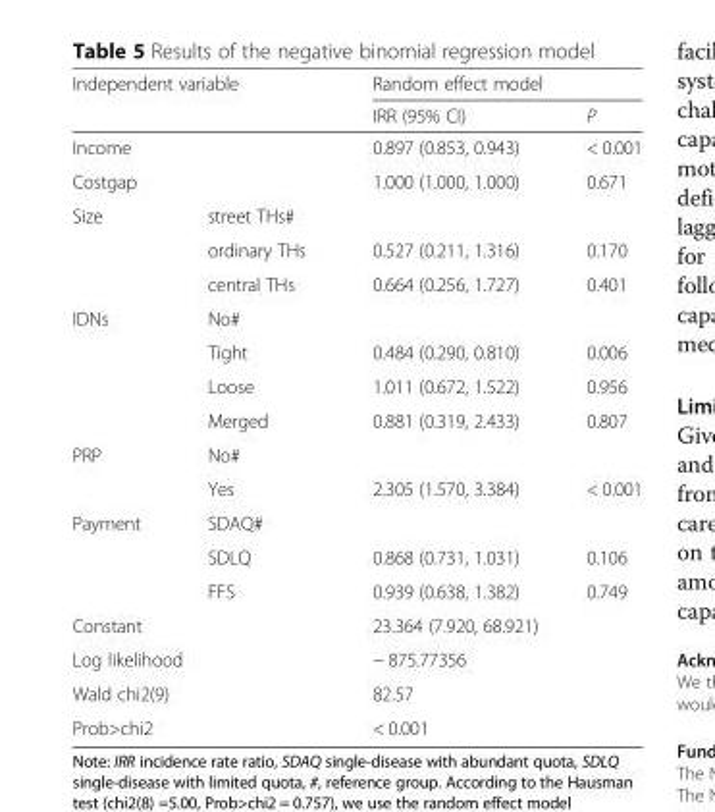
<table><thead><tr><td rowspan="2" colspan="2">Independent variable</td><td colspan="2">Random effect model</td></tr><tr><td rowspan="2">IRR (95% CI) 0.897 (0.853, 0.943)</td><td rowspan="2">P &lt; 0.001</td></tr><tr><td>Income</td><td></td></tr></thead><tbody><tr><td>Costgap</td><td></td><td>1.000 (1.000, 1.000)</td><td>0.671</td></tr><tr><td rowspan="3">Size</td><td>street THs#</td><td></td><td></td></tr><tr><td>ordinary THs</td><td>0.527 (0.211, 1.316)</td><td>0.170</td></tr><tr><td>central THs</td><td>0.664 (0.256, 1.727)</td><td>0.401</td></tr><tr><td rowspan="4">IDNs</td><td>No#</td><td></td><td></td></tr><tr><td>Tight</td><td>0.484 (0.290, 0.810)</td><td>0.006</td></tr><tr><td>Loose</td><td>1.011 (0.672, 1.522)</td><td>0.956</td></tr><tr><td>Merged</td><td>0.881 (0.319, 2.433)</td><td>0.807</td></tr><tr><td rowspan="2">PRP</td><td>No#</td><td></td><td></td></tr><tr><td>Yes</td><td>2.305 (1.570, 3.384)</td><td>&lt; 0.001</td></tr><tr><td rowspan="3">Payment</td><td>SDAQ#</td><td></td><td></td></tr><tr><td>SDLQ</td><td>0.868 (0.731, 1.031)</td><td>0.106</td></tr><tr><td>FFS</td><td>0.939 (0.638, 1.382)</td><td>0.749</td></tr><tr><td colspan="2">Constant</td><td colspan="2">23.364 (7.920, 68.921)</td></tr><tr><td colspan="2">Log likelihood</td><td colspan="2">− 875.77356</td></tr><tr><td colspan="2">Wald chi2(9)</td><td colspan="2">82.57</td></tr><tr><td colspan="2">Prob&gt;chi2</td><td colspan="2">&lt; 0.001</td></tr></tbody></table>